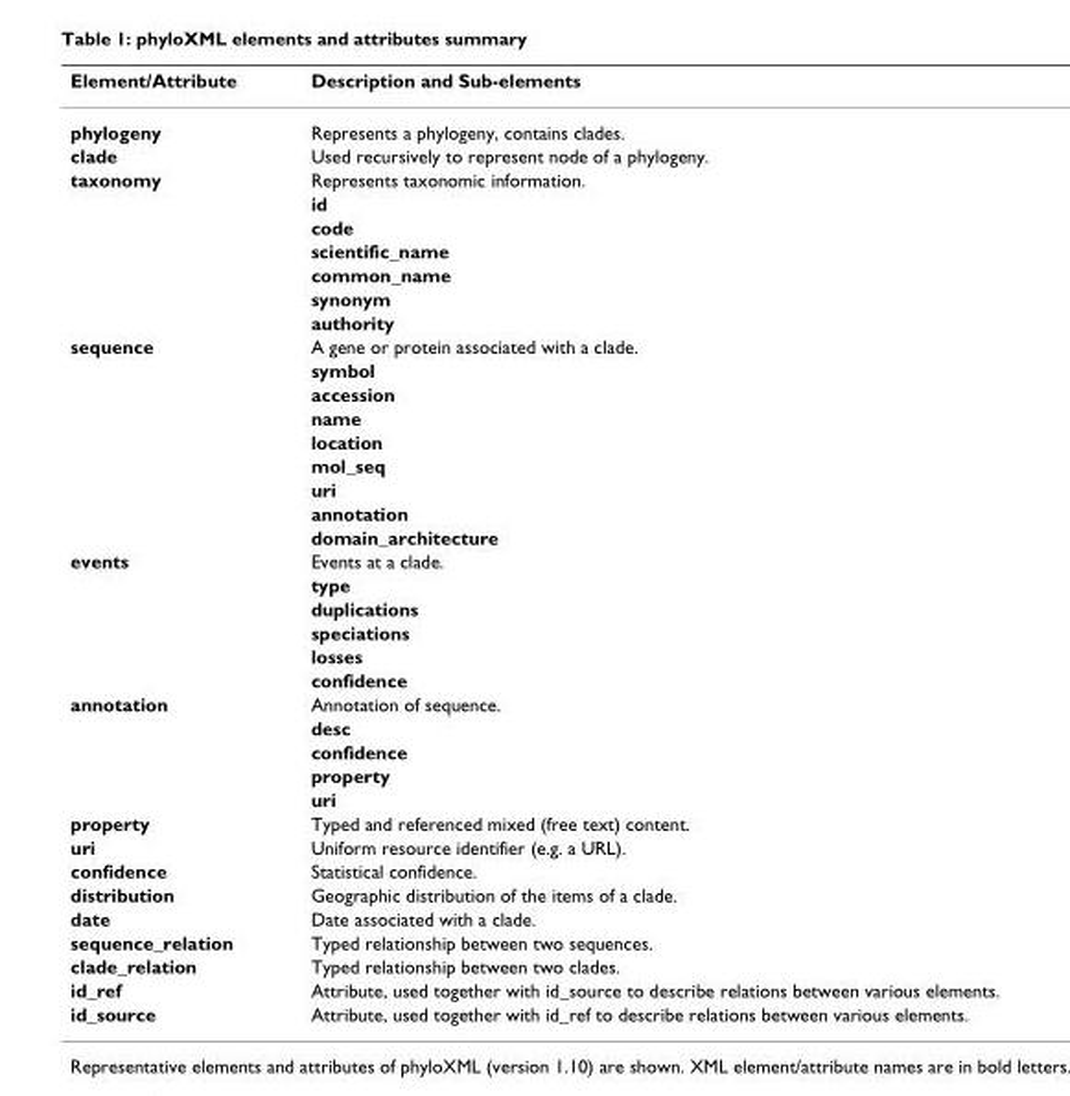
<table><thead><tr><td>Element/Attribute</td><td>Description and Sub-elements</td></tr></thead><tbody><tr><td>phylogeny</td><td>Represents a phylogeny, contains clades.</td></tr><tr><td>clade</td><td>Used recursively to represent node of a phylogeny.</td></tr><tr><td rowspan="7">taxonomy</td><td>Represents taxonomic information.</td></tr><tr><td>id</td></tr><tr><td>code</td></tr><tr><td>scientific_name</td></tr><tr><td>common_name</td></tr><tr><td>synonym</td></tr><tr><td>authority</td></tr><tr><td rowspan="9">sequence</td><td>A gene or protein associated with a clade.</td></tr><tr><td>symbol</td></tr><tr><td>accession</td></tr><tr><td>name</td></tr><tr><td>location</td></tr><tr><td>mol_seq</td></tr><tr><td>uri</td></tr><tr><td>annotation</td></tr><tr><td>domain_architecture</td></tr><tr><td rowspan="6">events</td><td>Events at a clade.</td></tr><tr><td>type</td></tr><tr><td>duplications</td></tr><tr><td>speciations</td></tr><tr><td>losses</td></tr><tr><td>confidence</td></tr><tr><td rowspan="5">annotation</td><td>Annotation of sequence.</td></tr><tr><td>desc</td></tr><tr><td>confidence</td></tr><tr><td>property</td></tr><tr><td>uri</td></tr><tr><td>property</td><td>Typed and referenced mixed (free text) content.</td></tr><tr><td>uri</td><td>Uniform resource identifier (e.g. a URL).</td></tr><tr><td>confidence</td><td>Statistical confidence.</td></tr><tr><td>distribution</td><td>Geographic distribution of the items of a clade.</td></tr><tr><td>date</td><td>Date associated with a clade.</td></tr><tr><td>sequence_relation</td><td>Typed relationship between two sequences.</td></tr><tr><td>clade_relation</td><td>Typed relationship between two clades.</td></tr><tr><td>id_ref</td><td>Attribute, used together with id_source to describe relations between various elements.</td></tr><tr><td>id_source</td><td>Attribute, used together with id_ref to describe relations between various elements.</td></tr></tbody></table>